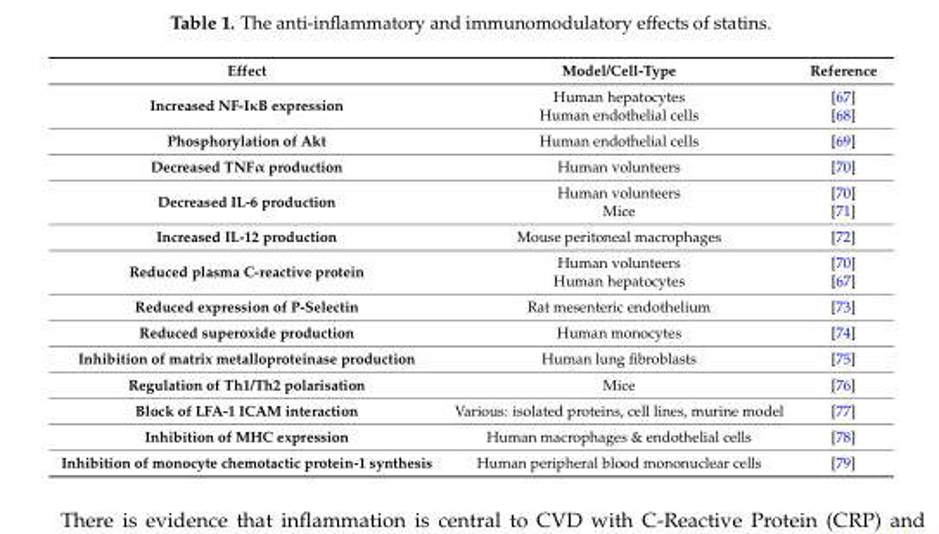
<table><thead><tr><td>Effect</td><td>Model/Cell-Type</td><td>Reference</td></tr></thead><tbody><tr><td rowspan="2">Increased NF-IκB expression</td><td>Human hepatocytes</td><td>[67]</td></tr><tr><td>Human endothelial cells</td><td>[68]</td></tr><tr><td>Phosphorylation of Akt</td><td>Human endothelial cells</td><td>[69]</td></tr><tr><td>Decreased TNFα production</td><td>Human volunteers</td><td>[70]</td></tr><tr><td rowspan="2">Decreased IL-6 production</td><td>Human volunteers</td><td>[70]</td></tr><tr><td>Mice</td><td>[71]</td></tr><tr><td>Increased IL-12 production</td><td>Mouse peritoneal macrophages</td><td>[72]</td></tr><tr><td rowspan="2">Reduced plasma C-reactive protein</td><td>Human volunteers</td><td>[70]</td></tr><tr><td>Human hepatocytes</td><td>[67]</td></tr><tr><td>Reduced expression of P-Selectin</td><td>Rat mesenteric endothelium</td><td>[73]</td></tr><tr><td>Reduced superoxide production</td><td>Human monocytes</td><td>[74]</td></tr><tr><td>Inhibition of matrix metalloproteinase production</td><td>Human lung fibroblasts</td><td>[75]</td></tr><tr><td>Regulation of Th1/Th2 polarisation</td><td>Mice</td><td>[76]</td></tr><tr><td>Block of LFA-1 ICAM interaction</td><td>Various: isolated proteins, cell lines, murine model</td><td>[77]</td></tr><tr><td>Inhibition of MHC expression</td><td>Human macrophages &amp; endothelial cells</td><td>[78]</td></tr><tr><td>Inhibition of monocyte chemotactic protein-1 synthesis</td><td>Human peripheral blood mononuclear cells</td><td>[79]</td></tr></tbody></table>